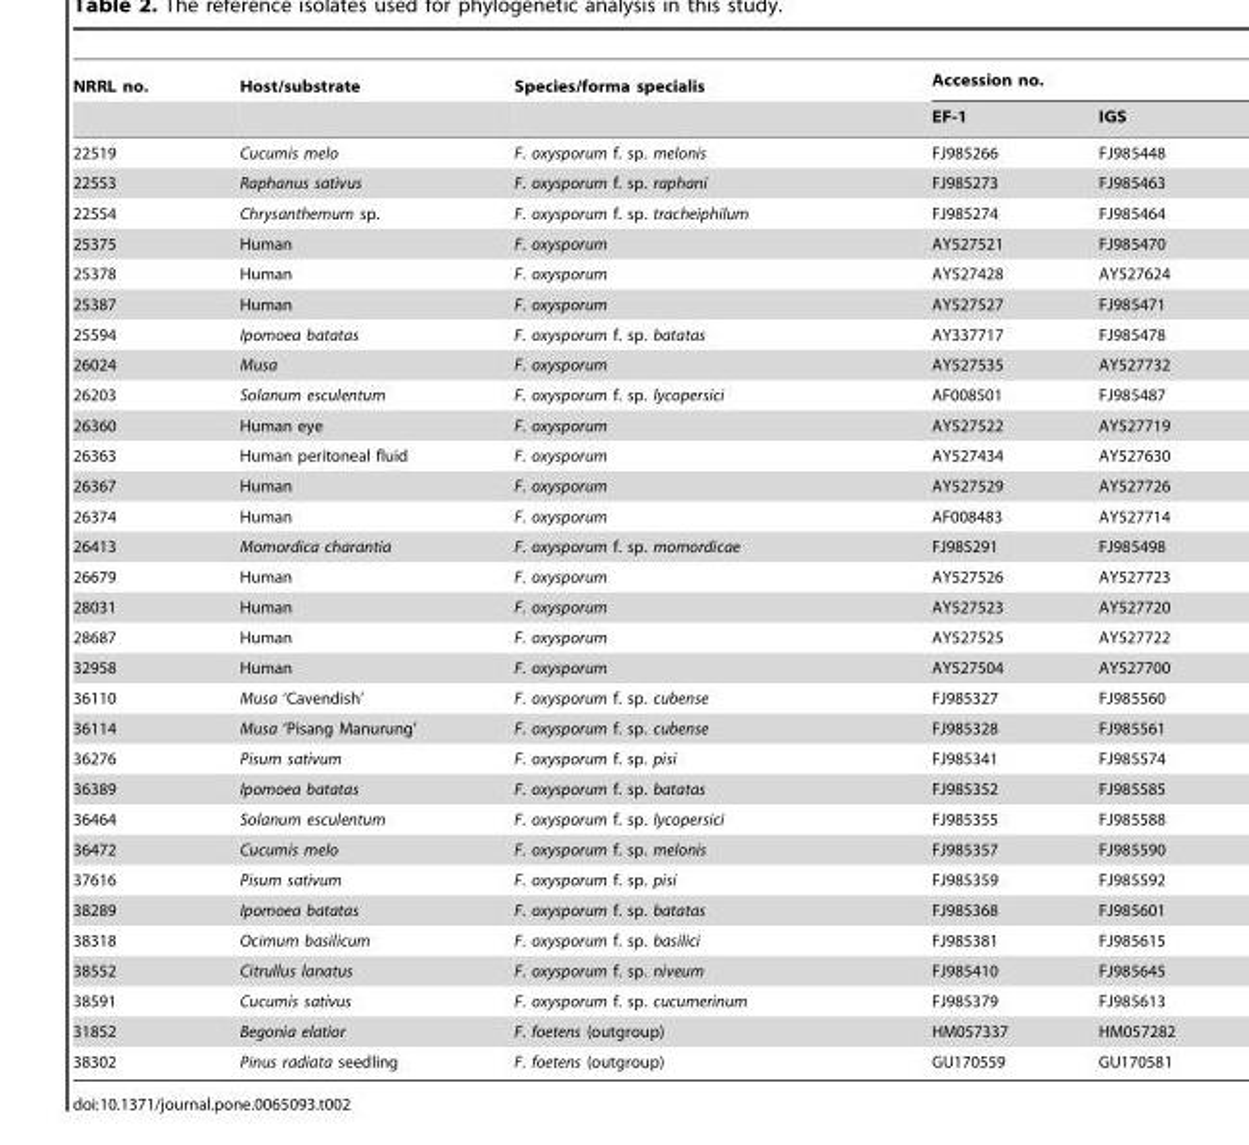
<table><thead><tr><td rowspan="2">NRRL no.</td><td rowspan="2">Host/substrate</td><td rowspan="2">Species/forma specialis</td><td colspan="2">Accession no.</td></tr><tr><td>EF-1</td><td>IGS</td></tr></thead><tbody><tr><td>22519</td><td>Cucumis melo</td><td>F. oxysporum f. sp. melonis</td><td>FJ985266</td><td>FJ985448</td></tr><tr><td>22553</td><td>Raphanus sativus</td><td>F. oxysporum f. sp. raphani</td><td>FJ985273</td><td>FJ985463</td></tr><tr><td>22554</td><td>Chrysanthemum sp.</td><td>F. oxysporum f. sp. tracheiphilum</td><td>FJ985274</td><td>FJ985464</td></tr><tr><td>25375</td><td>Human</td><td>F. oxysporum</td><td>AY527521</td><td>FJ985470</td></tr><tr><td>25378</td><td>Human</td><td>F. oxysporum</td><td>AY527428</td><td>AY527624</td></tr><tr><td>25387</td><td>Human</td><td>F. oxysporum</td><td>AY527527</td><td>FJ985471</td></tr><tr><td>25594</td><td>Ipomoea batatas</td><td>F. oxysporum f. sp. batatas</td><td>AY337717</td><td>FJ985478</td></tr><tr><td>26024</td><td>Musa</td><td>F. oxysporum</td><td>AY527535</td><td>AY527732</td></tr><tr><td>26203</td><td>Solanum esculentum</td><td>F. oxysporum f. sp. lycopersici</td><td>AF008501</td><td>FJ985487</td></tr><tr><td>26360</td><td>Human eye</td><td>F. oxysporum</td><td>AY527522</td><td>AY527719</td></tr><tr><td>26363</td><td>Human peritoneal fluid</td><td>F. oxysporum</td><td>AY527434</td><td>AY527630</td></tr><tr><td>26367</td><td>Human</td><td>F. oxysporum</td><td>AY527529</td><td>AY527726</td></tr><tr><td>26374</td><td>Human</td><td>F. oxysporum</td><td>AF008483</td><td>AY527714</td></tr><tr><td>26413</td><td>Momordica charantia</td><td>F. oxysporum f. sp. momordicae</td><td>FJ985291</td><td>FJ985498</td></tr><tr><td>26679</td><td>Human</td><td>F. oxysporum</td><td>AY527526</td><td>AY527723</td></tr><tr><td>28031</td><td>Human</td><td>F. oxysporum</td><td>AY527523</td><td>AY527720</td></tr><tr><td>28687</td><td>Human</td><td>F. oxysporum</td><td>AY527525</td><td>AY527722</td></tr><tr><td>32958</td><td>Human</td><td>F. oxysporum</td><td>AY527504</td><td>AY527700</td></tr><tr><td>36110</td><td>Musa ‘Cavendish’</td><td>F. oxysporum f. sp. cubense</td><td>FJ985327</td><td>FJ985560</td></tr><tr><td>36114</td><td>Musa ‘Pisang Manurung’</td><td>F. oxysporum f. sp. cubense</td><td>FJ985328</td><td>FJ985561</td></tr><tr><td>36276</td><td>Pisum sativum</td><td>F. oxysporum f. sp. pisi</td><td>FJ985341</td><td>FJ985574</td></tr><tr><td>36389</td><td>Ipomoea batatas</td><td>F. oxysporum f. sp. batatas</td><td>FJ985352</td><td>FJ985585</td></tr><tr><td>36464</td><td>Solanum esculentum</td><td>F. oxysporum f. sp. lycopersici</td><td>FJ985355</td><td>FJ985588</td></tr><tr><td>36472</td><td>Cucumis melo</td><td>F. oxysporum f. sp. melonis</td><td>FJ985357</td><td>FJ985590</td></tr><tr><td>37616</td><td>Pisum sativum</td><td>F. oxysporum f. sp. pisi</td><td>FJ985359</td><td>FJ985592</td></tr><tr><td>38289</td><td>Ipomoea batatas</td><td>F. oxysporum f. sp. batatas</td><td>FJ985368</td><td>FJ985601</td></tr><tr><td>38318</td><td>Ocimum basilicum</td><td>F. oxysporum f. sp. basilici</td><td>FJ985381</td><td>FJ985615</td></tr><tr><td>38552</td><td>Citrullus lanatus</td><td>F. oxysporum f. sp. niveum</td><td>FJ985410</td><td>FJ985645</td></tr><tr><td>38591</td><td>Cucumis sativus</td><td>F. oxysporum f. sp. cucumerinum</td><td>FJ985379</td><td>FJ985613</td></tr><tr><td>31852</td><td>Begonia elatior</td><td>F. foetens (outgroup)</td><td>HM057337</td><td>HM057282</td></tr><tr><td>38302</td><td>Pinus radiata seedling</td><td>F. foetens (outgroup)</td><td>GU170559</td><td>GU170581</td></tr></tbody></table>